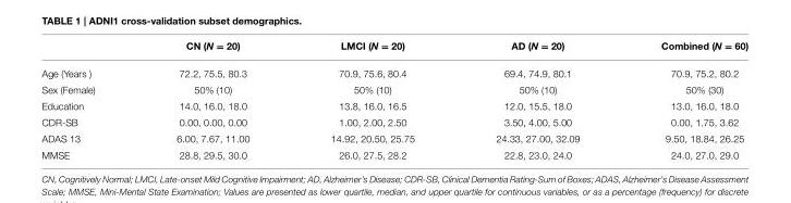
<table><thead><tr><td></td><td>CN (N = 20)</td><td>LMCI (N = 20)</td><td>AD (N = 20)</td><td>Combined (N = 60)</td></tr></thead><tbody><tr><td>Age (Years )</td><td>72.2, 75.5, 80.3</td><td>70.9, 75.6, 80.4</td><td>69.4, 74.9, 80.1</td><td>70.9, 75.2, 80.2</td></tr><tr><td>Sex (Female)</td><td>50% (10)</td><td>50% (10)</td><td>50% (10)</td><td>50% (30)</td></tr><tr><td>Education</td><td>14.0, 16.0, 18.0</td><td>13.8, 16.0, 16.5</td><td>12.0, 15.5, 18.0</td><td>13.0, 16.0, 18.0</td></tr><tr><td>CDR-SB</td><td>0.00, 0.00, 0.00</td><td>1.00, 2.00, 2.50</td><td>3.50, 4.00, 5.00</td><td>0.00, 1.75, 3.62</td></tr><tr><td>ADAS 13</td><td>6.00, 7.67, 11.00</td><td>14.92, 20.50, 25.75</td><td>24.33, 27.00, 32.09</td><td>9.50, 18.84, 26.25</td></tr><tr><td>MMSE</td><td>28.8, 29.5, 30.0</td><td>26.0, 27.5, 28.2</td><td>22.8, 23.0, 24.0</td><td>24.0, 27.0, 29.0</td></tr></tbody></table>